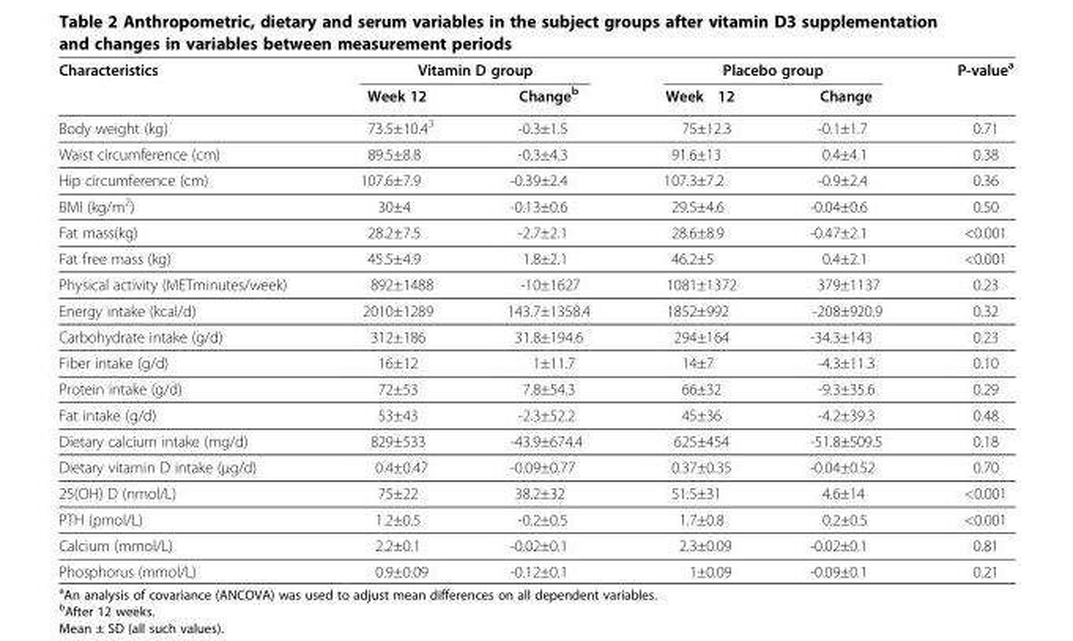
<table><thead><tr><td rowspan="2">Characteristics</td><td colspan="2">Vitamin D group</td><td colspan="2">Placebo group</td><td rowspan="2">P-value<sup>a</sup></td></tr><tr><td>Week 12</td><td>Change<sup>b</sup></td><td>Week 12</td><td>Change</td></tr></thead><tbody><tr><td>Body weight (kg)</td><td>73.5±10.4<sup>3</sup></td><td>-0.3±1.5</td><td>75±12.3</td><td>-0.1±1.7</td><td>0.71</td></tr><tr><td>Waist circumference (cm)</td><td>89.5±8.8</td><td>-0.3±4.3</td><td>91.6±13</td><td>0.4±4.1</td><td>0.38</td></tr><tr><td>Hip circumference (cm)</td><td>107.6±7.9</td><td>-0.39±2.4</td><td>107.3±7.2</td><td>-0.9±2.4</td><td>0.36</td></tr><tr><td>BMI (kg/m<sup>2</sup>)</td><td>30±4</td><td>-0.13±0.6</td><td>29.5±4.6</td><td>-0.04±0.6</td><td>0.50</td></tr><tr><td>Fat mass(kg)</td><td>28.2±7.5</td><td>-2.7±2.1</td><td>28.6±8.9</td><td>-0.47±2.1</td><td>&lt;0.001</td></tr><tr><td>Fat free mass (kg)</td><td>45.5±4.9</td><td>1.8±2.1</td><td>46.2±5</td><td>0.4±2.1</td><td>&lt;0.001</td></tr><tr><td>Physical activity (METminutes/week)</td><td>892±1488</td><td>-10±1627</td><td>1081±1372</td><td>379±1137</td><td>0.23</td></tr><tr><td>Energy intake (kcal/d)</td><td>2010±1289</td><td>143.7±1358.4</td><td>1852±992</td><td>-208±920.9</td><td>0.32</td></tr><tr><td>Carbohydrate intake (g/d)</td><td>312±186</td><td>31.8±194.6</td><td>294±164</td><td>-34.3±143</td><td>0.23</td></tr><tr><td>Fiber intake (g/d)</td><td>16±12</td><td>1±11.7</td><td>14±7</td><td>-4.3±11.3</td><td>0.10</td></tr><tr><td>Protein intake (g/d)</td><td>72±53</td><td>7.8±54.3</td><td>66±32</td><td>-9.3±35.6</td><td>0.29</td></tr><tr><td>Fat intake (g/d)</td><td>53±43</td><td>-2.3±52.2</td><td>45±36</td><td>-4.2±39.3</td><td>0.48</td></tr><tr><td>Dietary calcium intake (mg/d)</td><td>829±533</td><td>-43.9±674.4</td><td>625±454</td><td>-51.8±509.5</td><td>0.18</td></tr><tr><td>Dietary vitamin D intake (μg/d)</td><td>0.4±0.47</td><td>-0.09±0.77</td><td>0.37±0.35</td><td>-0.04±0.52</td><td>0.70</td></tr><tr><td>25(OH) D (nmol/L)</td><td>75±22</td><td>38.2±32</td><td>51.5±31</td><td>4.6±14</td><td>&lt;0.001</td></tr><tr><td>PTH (pmol/L)</td><td>1.2±0.5</td><td>-0.2±0.5</td><td>1.7±0.8</td><td>0.2±0.5</td><td>&lt;0.001</td></tr><tr><td>Calcium (mmol/L)</td><td>2.2±0.1</td><td>-0.02±0.1</td><td>2.3±0.09</td><td>-0.02±0.1</td><td>0.81</td></tr><tr><td>Phosphorus (mmol/L)</td><td>0.9±0.09</td><td>-0.12±0.1</td><td>1±0.09</td><td>-0.09±0.1</td><td>0.21</td></tr></tbody></table>